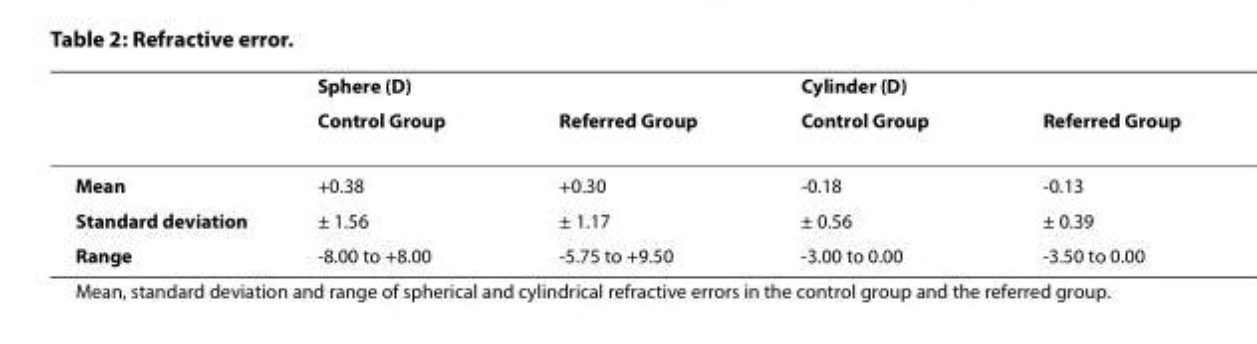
<table><thead><tr><td rowspan="2"></td><td colspan="2">Sphere (D)</td><td colspan="2">Cylinder (D)</td></tr><tr><td>Control Group</td><td>Referred Group</td><td>Control Group</td><td>Referred Group</td></tr></thead><tbody><tr><td>Mean</td><td>+0.38</td><td>+0.30</td><td>-0.18</td><td>-0.13</td></tr><tr><td>Standard deviation</td><td>± 1.56</td><td>± 1.17</td><td>± 0.56</td><td>± 0.39</td></tr><tr><td>Range</td><td>-8.00 to +8.00</td><td>-5.75 to +9.50</td><td>-3.00 to 0.00</td><td>-3.50 to 0.00</td></tr></tbody></table>